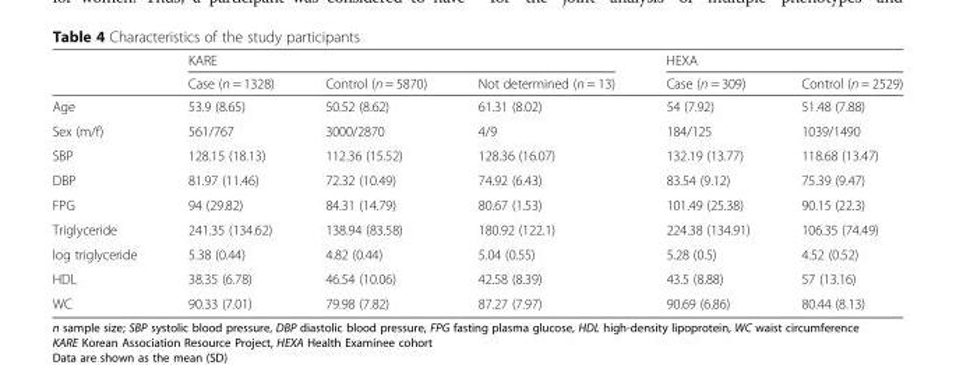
<table><thead><tr><td rowspan="2"></td><td colspan="3">KARE</td><td colspan="2">HEXA</td></tr><tr><td>Case (n = 1328)</td><td>Control (n = 5870)</td><td>Not determined (n = 13)</td><td>Case (n = 309)</td><td>Control (n = 2529)</td></tr></thead><tbody><tr><td>Age</td><td>53.9 (8.65)</td><td>50.52 (8.62)</td><td>61.31 (8.02)</td><td>54 (7.92)</td><td>51.48 (7.88)</td></tr><tr><td>Sex (m/f)</td><td>561/767</td><td>3000/2870</td><td>4/9</td><td>184/125</td><td>1039/1490</td></tr><tr><td>SBP</td><td>128.15 (18.13)</td><td>112.36 (15.52)</td><td>128.36 (16.07)</td><td>132.19 (13.77)</td><td>118.68 (13.47)</td></tr><tr><td>DBP</td><td>81.97 (11.46)</td><td>72.32 (10.49)</td><td>74.92 (6.43)</td><td>83.54 (9.12)</td><td>75.39 (9.47)</td></tr><tr><td>FPG</td><td>94 (29.82)</td><td>84.31 (14.79)</td><td>80.67 (1.53)</td><td>101.49 (25.38)</td><td>90.15 (22.3)</td></tr><tr><td>Triglyceride</td><td>241.35 (134.62)</td><td>138.94 (83.58)</td><td>180.92 (122.1)</td><td>224.38 (134.91)</td><td>106.35 (74.49)</td></tr><tr><td>log triglyceride</td><td>5.38 (0.44)</td><td>4.82 (0.44)</td><td>5.04 (0.55)</td><td>5.28 (0.5)</td><td>4.52 (0.52)</td></tr><tr><td>HDL</td><td>38.35 (6.78)</td><td>46.54 (10.06)</td><td>42.58 (8.39)</td><td>43.5 (8.88)</td><td>57 (13.16)</td></tr><tr><td>WC</td><td>90.33 (7.01)</td><td>79.98 (7.82)</td><td>87.27 (7.97)</td><td>90.69 (6.86)</td><td>80.44 (8.13)</td></tr></tbody></table>